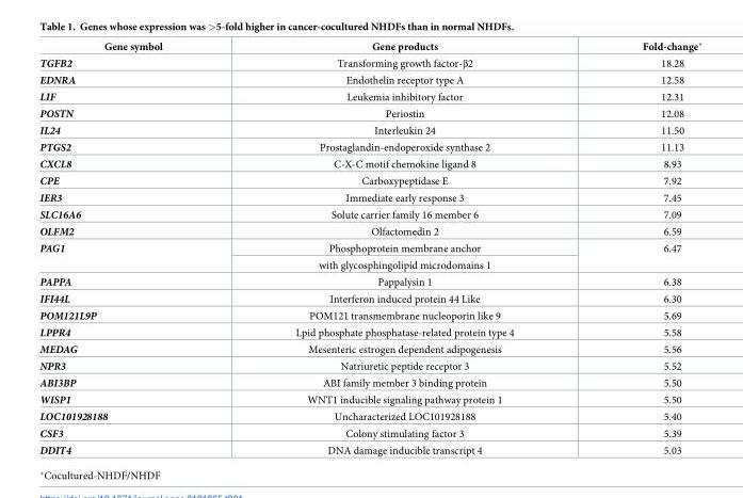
<table><thead><tr><td>Gene symbol</td><td>Gene products</td><td>Fold-change*</td></tr></thead><tbody><tr><td>TGFB2</td><td>Transforming growth factor-β2</td><td>18.28</td></tr><tr><td>EDNRA</td><td>Endothelin receptor type A</td><td>12.58</td></tr><tr><td>LIF</td><td>Leukemia inhibitory factor</td><td>12.31</td></tr><tr><td>POSTN</td><td>Periostin</td><td>12.08</td></tr><tr><td>IL24</td><td>Interleukin 24</td><td>11.50</td></tr><tr><td>PTGS2</td><td>Prostaglandin-endoperoxide synthase 2</td><td>11.13</td></tr><tr><td>CXCL8</td><td>C-X-C motif chemokine ligand 8</td><td>8.93</td></tr><tr><td>CPE</td><td>Carboxypeptidase E</td><td>7.92</td></tr><tr><td>IER3</td><td>Immediate early response 3</td><td>7.45</td></tr><tr><td>SLC16A6</td><td>Solute carrier family 16 member 6</td><td>7.09</td></tr><tr><td>OLFM2</td><td>Olfactomedin 2</td><td>6.59</td></tr><tr><td rowspan="2">PAG1</td><td>Phosphoprotein membrane anchor</td><td rowspan="2">6.47</td></tr><tr><td>with glycosphingolipid microdomains 1</td></tr><tr><td>PAPPA</td><td>Pappalysin 1</td><td>6.38</td></tr><tr><td>IFI44L</td><td>Interferon induced protein 44 Like</td><td>6.30</td></tr><tr><td>POM121L9P</td><td>POM121 transmembrane nucleoporin like 9</td><td>5.69</td></tr><tr><td>LPPR4</td><td>Lpid phosphate phosphatase-related protein type 4</td><td>5.58</td></tr><tr><td>MEDAG</td><td>Mesenteric estrogen dependent adipogenesis</td><td>5.56</td></tr><tr><td>NPR3</td><td>Natriuretic peptide receptor 3</td><td>5.52</td></tr><tr><td>ABI3BP</td><td>ABI family member 3 binding protein</td><td>5.50</td></tr><tr><td>WISP1</td><td>WNT1 inducible signaling pathway protein 1</td><td>5.50</td></tr><tr><td>LOC101928188</td><td>Uncharacterized LOC101928188</td><td>5.40</td></tr><tr><td>CSF3</td><td>Colony stimulating factor 3</td><td>5.39</td></tr><tr><td>DDIT4</td><td>DNA damage inducible transcript 4</td><td>5.03</td></tr></tbody></table>